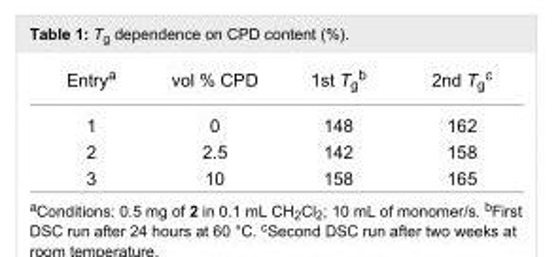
<table><tbody><tr><td>Entry<sup>a</sup></td><td>vol % CPD</td><td>1st T<sub>g</sub><sup>b</sup></td><td>2nd T<sub>g</sub><sup>c</sup></td></tr><tr><td>1</td><td>0</td><td>148</td><td>162</td></tr><tr><td>2</td><td>2.5</td><td>142</td><td>158</td></tr><tr><td>3</td><td>10</td><td>158</td><td>165</td></tr></tbody></table>